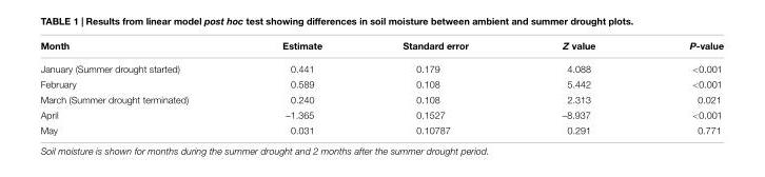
<table><thead><tr><td>Month</td><td>Estimate</td><td>Standard error</td><td>Z value</td><td>P-value</td></tr></thead><tbody><tr><td>January (Summer drought started)</td><td>0.441</td><td>0.179</td><td>4.088</td><td>&lt;0.001</td></tr><tr><td>February</td><td>0.589</td><td>0.108</td><td>5.442</td><td>&lt;0.001</td></tr><tr><td>March (Summer drought terminated)</td><td>0.240</td><td>0.108</td><td>2.313</td><td>0.021</td></tr><tr><td>April</td><td>–1.365</td><td>0.1527</td><td>–8.937</td><td>&lt;0.001</td></tr><tr><td>May</td><td>0.031</td><td>0.10787</td><td>0.291</td><td>0.771</td></tr></tbody></table>